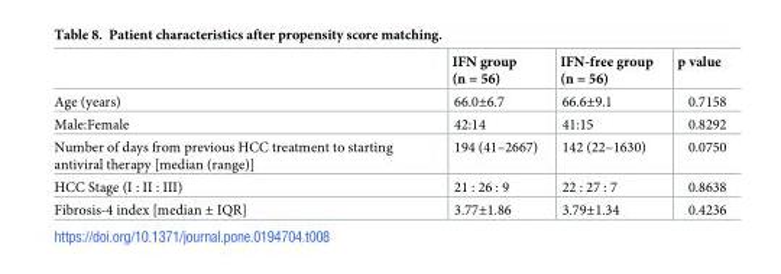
<table><thead><tr><td></td><td>IFN group (n = 56)</td><td>IFN-free group (n = 56)</td><td>p value</td></tr></thead><tbody><tr><td>Age (years)</td><td>66.0±6.7</td><td>66.6±9.1</td><td>0.7158</td></tr><tr><td>Male:Female</td><td>42:14</td><td>41:15</td><td>0.8292</td></tr><tr><td>Number of days from previous HCC treatment to starting antiviral therapy [median (range)]</td><td>194 (41–2667)</td><td>142 (22–1630)</td><td>0.0750</td></tr><tr><td>HCC Stage (I : II : III)</td><td>21 : 26 : 9</td><td>22 : 27 : 7</td><td>0.8638</td></tr><tr><td>Fibrosis-4 index [median ± IQR]</td><td>3.77±1.86</td><td>3.79±1.34</td><td>0.4236</td></tr></tbody></table>